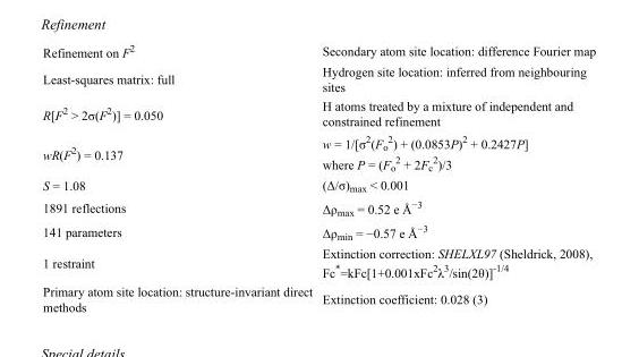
<table><tbody><tr><td>Refinement on F<sup>2</sup></td><td>Secondary atom site location: difference Fourier map</td></tr><tr><td>Least-squares matrix: full</td><td>Hydrogen site location: inferred from neighbouring sites</td></tr><tr><td>R[F<sup>2</sup> &gt; 2σ(F<sup>2</sup>)] = 0.050</td><td>H atoms treated by a mixture of independent and constrained refinement</td></tr><tr><td>wR(F<sup>2</sup>) = 0.137</td><td>w = 1/[σ<sup>2</sup>(F<sub>o</sub> <sup>2</sup>) + (0.0853P)<sup>2</sup> + 0.2427P] where P = (F<sub>o</sub> <sup>2</sup> + 2F<sub>c</sub> <sup>2</sup>)/3</td></tr><tr><td>S = 1.08</td><td>(Δ/σ)<sub>max</sub> &lt; 0.001</td></tr><tr><td>1891 reflections</td><td>Δρ<sub>max</sub> = 0.52 e Å<sup>−3</sup></td></tr><tr><td>141 parameters</td><td>Δρ<sub>min</sub> = −0.57 e Å<sup>−3</sup></td></tr><tr><td>1 restraint</td><td>Extinction correction: SHELXL97 (Sheldrick, 2008), Fc*=kFc[1+0.001xFc<sup>2</sup>λ<sup>3</sup>/sin(2θ)]<sup>-1/4</sup></td></tr><tr><td>Primary atom site location: structure-invariant direct methods</td><td>Extinction coefficient: 0.028 (3)</td></tr></tbody></table>